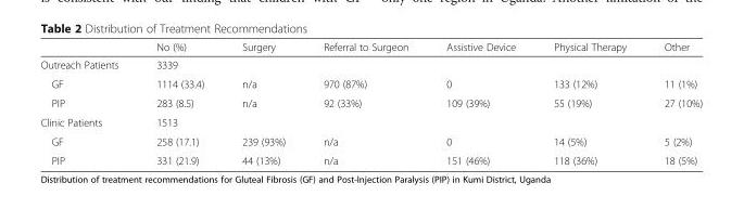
<table><thead><tr><td></td><td>No (%)</td><td>Surgery</td><td>Referral to Surgeon</td><td>Assistive Device</td><td>Physical Therapy</td><td>Other</td></tr></thead><tbody><tr><td>Outreach Patients</td><td>3339</td><td></td><td></td><td></td><td></td><td></td></tr><tr><td>GF</td><td>1114 (33.4)</td><td>n/a</td><td>970 (87%)</td><td>0</td><td>133 (12%)</td><td>11 (1%)</td></tr><tr><td>PIP</td><td>283 (8.5)</td><td>n/a</td><td>92 (33%)</td><td>109 (39%)</td><td>55 (19%)</td><td>27 (10%)</td></tr><tr><td>Clinic Patients</td><td>1513</td><td></td><td></td><td></td><td></td><td></td></tr><tr><td>GF</td><td>258 (17.1)</td><td>239 (93%)</td><td>n/a</td><td>0</td><td>14 (5%)</td><td>5 (2%)</td></tr><tr><td>PIP</td><td>331 (21.9)</td><td>44 (13%)</td><td>n/a</td><td>151 (46%)</td><td>118 (36%)</td><td>18 (5%)</td></tr></tbody></table>